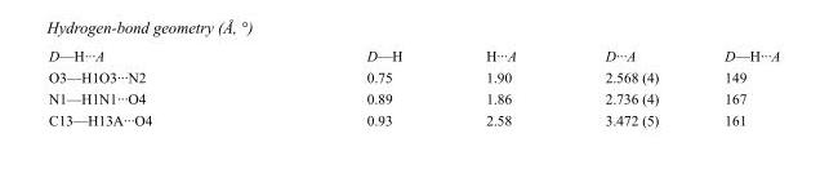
<table><tbody><tr><td>D—H···A</td><td>D—H</td><td>H···A</td><td>D···A</td><td>D—H···A</td></tr><tr><td>O3—H1O3···N2</td><td>0.75</td><td>1.90</td><td>2.568 (4)</td><td>149</td></tr><tr><td>N1—H1N1···O4</td><td>0.89</td><td>1.86</td><td>2.736 (4)</td><td>167</td></tr><tr><td>C13—H13A···O4</td><td>0.93</td><td>2.58</td><td>3.472 (5)</td><td>161</td></tr></tbody></table>